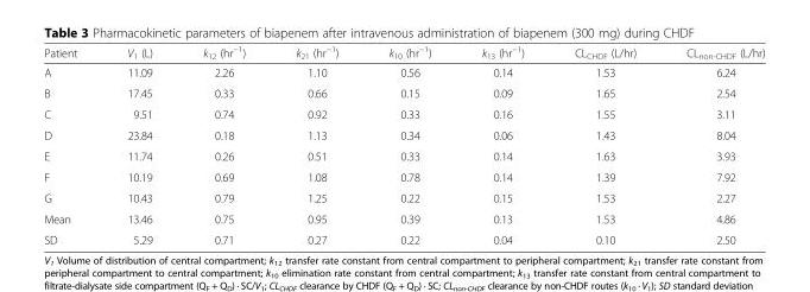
<table><thead><tr><td>Patient</td><td>V<sub>1</sub> (L)</td><td>k<sub>12</sub> (hr<sup>−1</sup>)</td><td>k<sub>21</sub> (hr<sup>−1</sup>)</td><td>k<sub>10</sub> (hr<sup>−1</sup>)</td><td>k<sub>13</sub> (hr<sup>−1</sup>)</td><td>CL<sub>CHDF</sub> (L/hr)</td><td>CL<sub>non-CHDF</sub> (L/hr)</td></tr></thead><tbody><tr><td>A</td><td>11.09</td><td>2.26</td><td>1.10</td><td>0.56</td><td>0.14</td><td>1.53</td><td>6.24</td></tr><tr><td>B</td><td>17.45</td><td>0.33</td><td>0.66</td><td>0.15</td><td>0.09</td><td>1.65</td><td>2.54</td></tr><tr><td>C</td><td>9.51</td><td>0.74</td><td>0.92</td><td>0.33</td><td>0.16</td><td>1.55</td><td>3.11</td></tr><tr><td>D</td><td>23.84</td><td>0.18</td><td>1.13</td><td>0.34</td><td>0.06</td><td>1.43</td><td>8.04</td></tr><tr><td>E</td><td>11.74</td><td>0.26</td><td>0.51</td><td>0.33</td><td>0.14</td><td>1.63</td><td>3.93</td></tr><tr><td>F</td><td>10.19</td><td>0.69</td><td>1.08</td><td>0.78</td><td>0.14</td><td>1.39</td><td>7.92</td></tr><tr><td>G</td><td>10.43</td><td>0.79</td><td>1.25</td><td>0.22</td><td>0.15</td><td>1.53</td><td>2.27</td></tr><tr><td>Mean</td><td>13.46</td><td>0.75</td><td>0.95</td><td>0.39</td><td>0.13</td><td>1.53</td><td>4.86</td></tr><tr><td>SD</td><td>5.29</td><td>0.71</td><td>0.27</td><td>0.22</td><td>0.04</td><td>0.10</td><td>2.50</td></tr></tbody></table>